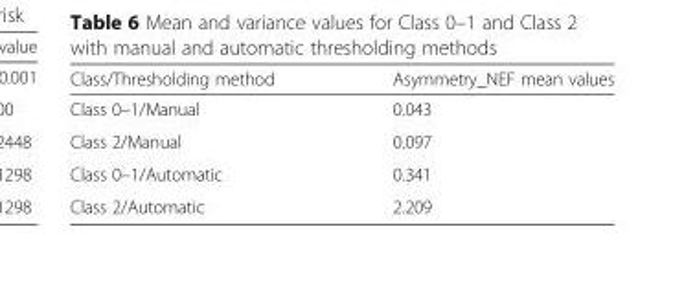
<table><thead><tr><td>Class/Thresholding method</td><td>Asymmetry_NEF mean values</td></tr></thead><tbody><tr><td>Class 0–1/Manual</td><td>0.043</td></tr><tr><td>Class 2/Manual</td><td>0.097</td></tr><tr><td>Class 0–1/Automatic</td><td>0.341</td></tr><tr><td>Class 2/Automatic</td><td>2.209</td></tr></tbody></table>